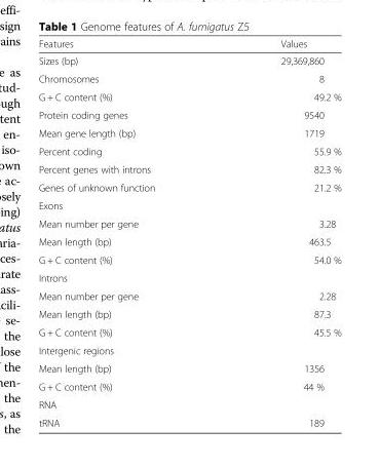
<table><thead><tr><td>Features</td><td>Values</td></tr></thead><tbody><tr><td>Sizes (bp)</td><td>29,369,860</td></tr><tr><td>Chromosomes</td><td>8</td></tr><tr><td>G + C content (%)</td><td>49.2 %</td></tr><tr><td>Protein coding genes</td><td>9540</td></tr><tr><td>Mean gene length (bp)</td><td>1719</td></tr><tr><td>Percent coding</td><td>55.9 %</td></tr><tr><td>Percent genes with introns</td><td>82.3 %</td></tr><tr><td>Genes of unknown function</td><td>21.2 %</td></tr><tr><td colspan="2">Exons</td></tr><tr><td>Mean number per gene</td><td>3.28</td></tr><tr><td>Mean length (bp)</td><td>463.5</td></tr><tr><td>G + C content (%)</td><td>54.0 %</td></tr><tr><td colspan="2">Introns</td></tr><tr><td>Mean number per gene</td><td>2.28</td></tr><tr><td>Mean length (bp)</td><td>87.3</td></tr><tr><td>G + C content (%)</td><td>45.5 %</td></tr><tr><td colspan="2">Intergenic regions</td></tr><tr><td>Mean length (bp)</td><td>1356</td></tr><tr><td>G + C content (%)</td><td>44 %</td></tr><tr><td colspan="2">RNA</td></tr><tr><td>tRNA</td><td>189</td></tr></tbody></table>